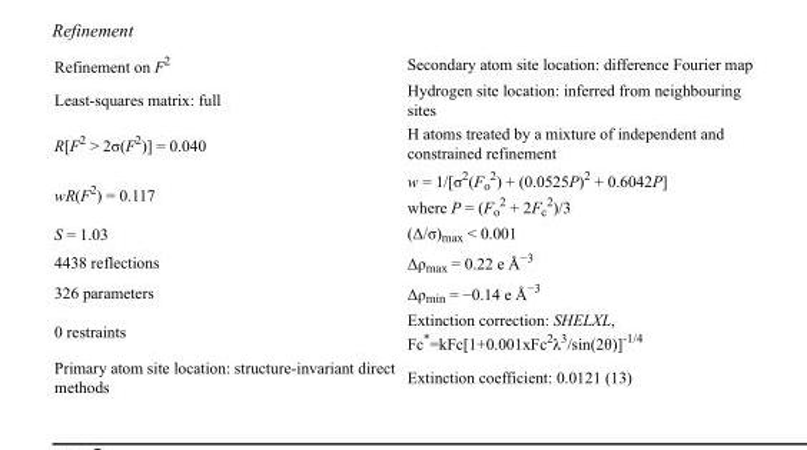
<table><tbody><tr><td>Refinement on F<sup>2</sup></td><td>Secondary atom site location: difference Fourier map</td></tr><tr><td>Least-squares matrix: full</td><td>Hydrogen site location: inferred from neighbouring sites</td></tr><tr><td>R[F<sup>2</sup> &gt; 2σ(F<sup>2</sup>)] = 0.040</td><td>H atoms treated by a mixture of independent and constrained refinement</td></tr><tr><td>wR(F<sup>2</sup>) = 0.117</td><td>w = 1/[σ<sup>2</sup>(F<sub>o</sub> <sup>2</sup>) + (0.0525P)<sup>2</sup> + 0.6042P] where P = (F<sub>o</sub> <sup>2</sup> + 2F<sub>c</sub> <sup>2</sup>)/3</td></tr><tr><td>S = 1.03</td><td>(Δ/σ)<sub>max</sub> &lt; 0.001</td></tr><tr><td>4438 reflections</td><td>Δρ<sub>max</sub> = 0.22 e Å<sup>−3</sup></td></tr><tr><td>326 parameters</td><td>Δρ<sub>min</sub> = −0.14 e Å<sup>−3</sup></td></tr><tr><td>0 restraints</td><td>Extinction correction: SHELXL, Fc*=kFc[1+0.001xFc<sup>2</sup>λ<sup>3</sup>/sin(2θ)]<sup>-1/4</sup></td></tr><tr><td>Primary atom site location: structure-invariant direct methods</td><td>Extinction coefficient: 0.0121 (13)</td></tr></tbody></table>